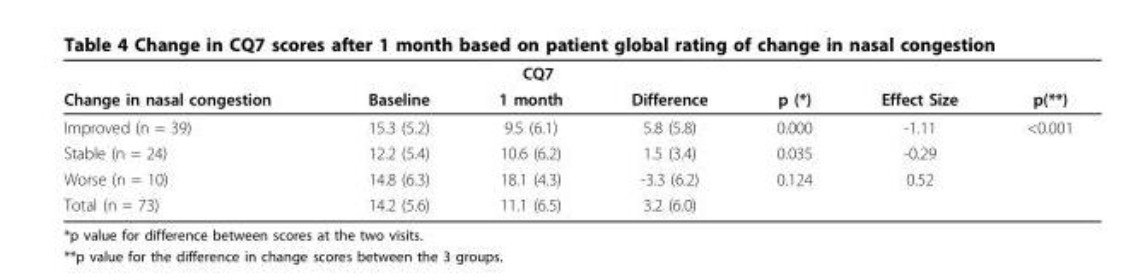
<table><thead><tr><td rowspan="2">Change in nasal congestion</td><td colspan="3">CQ7</td><td rowspan="2">p (*)</td><td rowspan="2">Effect Size</td><td rowspan="2">p(**)</td></tr><tr><td>Baseline</td><td>1 month</td><td>Difference</td></tr></thead><tbody><tr><td>Improved (n = 39)</td><td>15.3 (5.2)</td><td>9.5 (6.1)</td><td>5.8 (5.8)</td><td>0.000</td><td>-1.11</td><td>&lt;0.001</td></tr><tr><td>Stable (n = 24)</td><td>12.2 (5.4)</td><td>10.6 (6.2)</td><td>1.5 (3.4)</td><td>0.035</td><td>-0.29</td><td></td></tr><tr><td>Worse (n = 10)</td><td>14.8 (6.3)</td><td>18.1 (4.3)</td><td>-3.3 (6.2)</td><td>0.124</td><td>0.52</td><td></td></tr><tr><td>Total (n = 73)</td><td>14.2 (5.6)</td><td>11.1 (6.5)</td><td>3.2 (6.0)</td><td></td><td></td><td></td></tr></tbody></table>